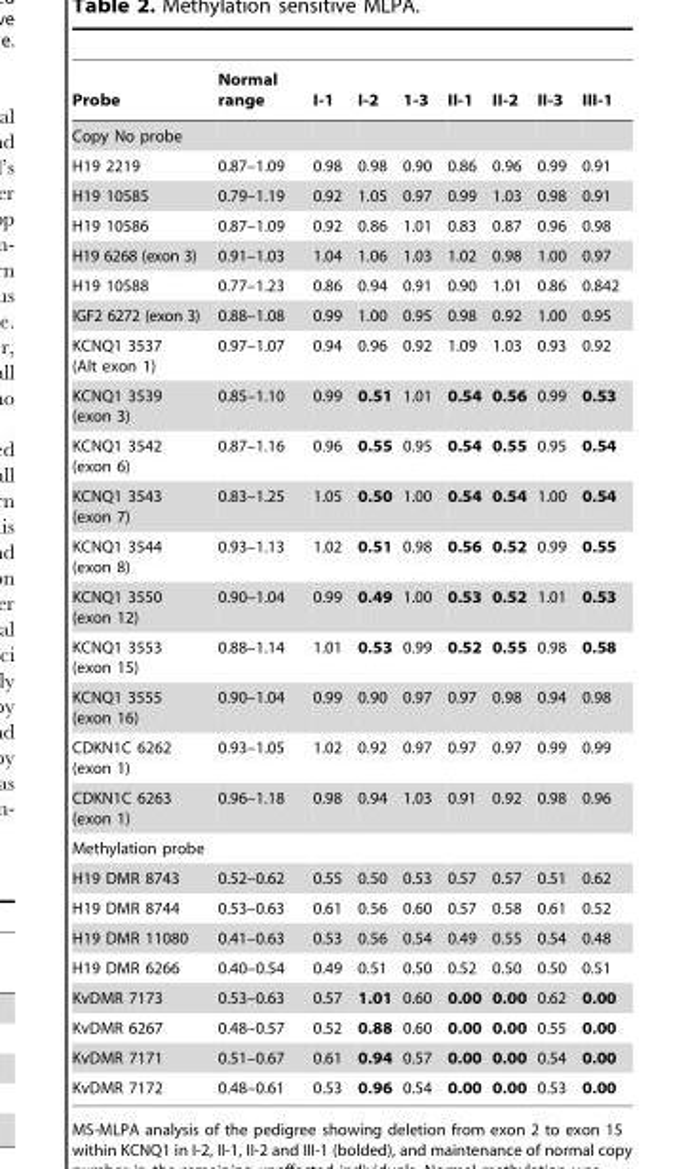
<table><thead><tr><td>Probe</td><td>Normal range</td><td>I-1</td><td>I-2</td><td>1-3</td><td>II-1</td><td>II-2</td><td>II-3</td><td>III-1</td></tr></thead><tbody><tr><td colspan="9">Copy No probe</td></tr><tr><td>H19 2219</td><td>0.87–1.09</td><td>0.98</td><td>0.98</td><td>0.90</td><td>0.86</td><td>0.96</td><td>0.99</td><td>0.91</td></tr><tr><td>H19 10585</td><td>0.79–1.19</td><td>0.92</td><td>1.05</td><td>0.97</td><td>0.99</td><td>1.03</td><td>0.98</td><td>0.91</td></tr><tr><td>H19 10586</td><td>0.87–1.09</td><td>0.92</td><td>0.86</td><td>1.01</td><td>0.83</td><td>0.87</td><td>0.96</td><td>0.98</td></tr><tr><td>H19 6268 (exon 3)</td><td>0.91–1.03</td><td>1.04</td><td>1.06</td><td>1.03</td><td>1.02</td><td>0.98</td><td>1.00</td><td>0.97</td></tr><tr><td>H19 10588</td><td>0.77–1.23</td><td>0.86</td><td>0.94</td><td>0.91</td><td>0.90</td><td>1.01</td><td>0.86</td><td>0.842</td></tr><tr><td>IGF2 6272 (exon 3)</td><td>0.88–1.08</td><td>0.99</td><td>1.00</td><td>0.95</td><td>0.98</td><td>0.92</td><td>1.00</td><td>0.95</td></tr><tr><td>KCNQ1 3537 (Alt exon 1)</td><td>0.97–1.07</td><td>0.94</td><td>0.96</td><td>0.92</td><td>1.09</td><td>1.03</td><td>0.93</td><td>0.92</td></tr><tr><td>KCNQ1 3539 (exon 3)</td><td>0.85–1.10</td><td>0.99</td><td>0.51</td><td>1.01</td><td>0.54</td><td>0.56</td><td>0.99</td><td>0.53</td></tr><tr><td>KCNQ1 3542 (exon 6)</td><td>0.87–1.16</td><td>0.96</td><td>0.55</td><td>0.95</td><td>0.54</td><td>0.55</td><td>0.95</td><td>0.54</td></tr><tr><td>KCNQ1 3543 (exon 7)</td><td>0.83–1.25</td><td>1.05</td><td>0.50</td><td>1.00</td><td>0.54</td><td>0.54</td><td>1.00</td><td>0.54</td></tr><tr><td>KCNQ1 3544 (exon 8)</td><td>0.93–1.13</td><td>1.02</td><td>0.51</td><td>0.98</td><td>0.56</td><td>0.52</td><td>0.99</td><td>0.55</td></tr><tr><td>KCNQ1 3550 (exon 12)</td><td>0.90–1.04</td><td>0.99</td><td>0.49</td><td>1.00</td><td>0.53</td><td>0.52</td><td>1.01</td><td>0.53</td></tr><tr><td>KCNQ1 3553 (exon 15)</td><td>0.88–1.14</td><td>1.01</td><td>0.53</td><td>0.99</td><td>0.52</td><td>0.55</td><td>0.98</td><td>0.58</td></tr><tr><td>KCNQ1 3555 (exon 16)</td><td>0.90–1.04</td><td>0.99</td><td>0.90</td><td>0.97</td><td>0.97</td><td>0.98</td><td>0.94</td><td>0.98</td></tr><tr><td>CDKN1C 6262 (exon 1)</td><td>0.93–1.05</td><td>1.02</td><td>0.92</td><td>0.97</td><td>0.97</td><td>0.97</td><td>0.99</td><td>0.99</td></tr><tr><td>CDKN1C 6263 (exon 1)</td><td>0.96–1.18</td><td>0.98</td><td>0.94</td><td>1.03</td><td>0.91</td><td>0.92</td><td>0.98</td><td>0.96</td></tr><tr><td colspan="9">Methylation probe</td></tr><tr><td>H19 DMR 8743</td><td>0.52–0.62</td><td>0.55</td><td>0.50</td><td>0.53</td><td>0.57</td><td>0.57</td><td>0.51</td><td>0.62</td></tr><tr><td>H19 DMR 8744</td><td>0.53–0.63</td><td>0.61</td><td>0.56</td><td>0.60</td><td>0.57</td><td>0.58</td><td>0.61</td><td>0.52</td></tr><tr><td>H19 DMR 11080</td><td>0.41–0.63</td><td>0.53</td><td>0.56</td><td>0.54</td><td>0.49</td><td>0.55</td><td>0.54</td><td>0.48</td></tr><tr><td>H19 DMR 6266</td><td>0.40–0.54</td><td>0.49</td><td>0.51</td><td>0.50</td><td>0.52</td><td>0.50</td><td>0.50</td><td>0.51</td></tr><tr><td>KvDMR 7173</td><td>0.53–0.63</td><td>0.57</td><td>1.01</td><td>0.60</td><td>0.00</td><td>0.00</td><td>0.62</td><td>0.00</td></tr><tr><td>KvDMR 6267</td><td>0.48–0.57</td><td>0.52</td><td>0.88</td><td>0.60</td><td>0.00</td><td>0.00</td><td>0.55</td><td>0.00</td></tr><tr><td>KvDMR 7171</td><td>0.51–0.67</td><td>0.61</td><td>0.94</td><td>0.57</td><td>0.00</td><td>0.00</td><td>0.54</td><td>0.00</td></tr><tr><td>KvDMR 7172</td><td>0.48–0.61</td><td>0.53</td><td>0.96</td><td>0.54</td><td>0.00</td><td>0.00</td><td>0.53</td><td>0.00</td></tr></tbody></table>